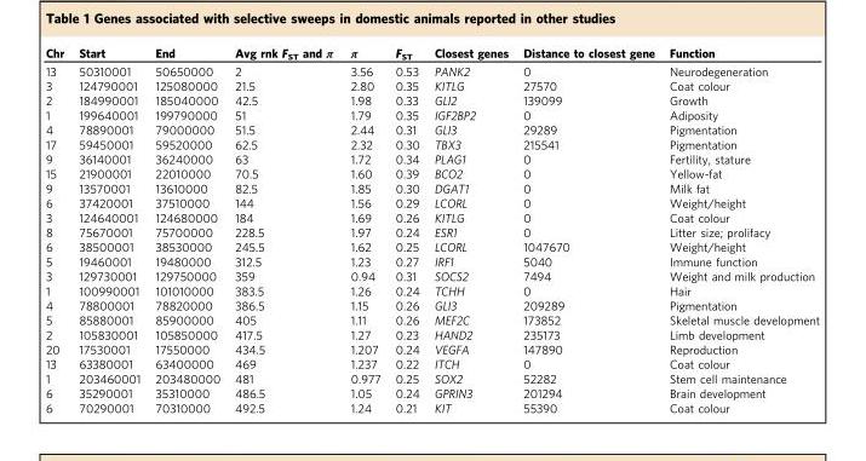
<table><thead><tr><td>Chr</td><td>Start</td><td>End</td><td>Avg rnk F<sub>ST</sub> and π</td><td>π</td><td>F<sub>ST</sub></td><td>Closest genes</td><td>Distance to closest gene</td><td>Function</td></tr></thead><tbody><tr><td>13</td><td>50310001</td><td>50650000</td><td>2</td><td>3.56</td><td>0.53</td><td>PANK2</td><td>0</td><td>Neurodegeneration</td></tr><tr><td>3</td><td>124790001</td><td>125080000</td><td>21.5</td><td>2.80</td><td>0.35</td><td>KITLG</td><td>27570</td><td>Coat colour</td></tr><tr><td>2</td><td>184990001</td><td>185040000</td><td>42.5</td><td>1.98</td><td>0.33</td><td>GLI2</td><td>139099</td><td>Growth</td></tr><tr><td>1</td><td>199640001</td><td>199790000</td><td>51</td><td>1.79</td><td>0.35</td><td>IGF2BP2</td><td>0</td><td>Adiposity</td></tr><tr><td>4</td><td>78890001</td><td>79000000</td><td>51.5</td><td>2.44</td><td>0.31</td><td>GLI3</td><td>29289</td><td>Pigmentation</td></tr><tr><td>17</td><td>59450001</td><td>59520000</td><td>62.5</td><td>2.32</td><td>0.30</td><td>TBX3</td><td>215541</td><td>Pigmentation</td></tr><tr><td>9</td><td>36140001</td><td>36240000</td><td>63</td><td>1.72</td><td>0.34</td><td>PLAG1</td><td>0</td><td>Fertility, stature</td></tr><tr><td>15</td><td>21900001</td><td>22010000</td><td>70.5</td><td>1.60</td><td>0.39</td><td>BCO2</td><td>0</td><td>Yellow-fat</td></tr><tr><td>9</td><td>13570001</td><td>13610000</td><td>82.5</td><td>1.85</td><td>0.30</td><td>DGAT1</td><td>0</td><td>Milk fat</td></tr><tr><td>6</td><td>37420001</td><td>37510000</td><td>144</td><td>1.56</td><td>0.29</td><td>LCORL</td><td>0</td><td>Weight/height</td></tr><tr><td>3</td><td>124640001</td><td>124680000</td><td>184</td><td>1.69</td><td>0.26</td><td>KITLG</td><td>0</td><td>Coat colour</td></tr><tr><td>8</td><td>75670001</td><td>75700000</td><td>228.5</td><td>1.97</td><td>0.24</td><td>ESR1</td><td>0</td><td>Litter size; prolifacy</td></tr><tr><td>6</td><td>38500001</td><td>38530000</td><td>245.5</td><td>1.62</td><td>0.25</td><td>LCORL</td><td>1047670</td><td>Weight/height</td></tr><tr><td>5</td><td>19460001</td><td>19480000</td><td>312.5</td><td>1.23</td><td>0.27</td><td>IRF1</td><td>5040</td><td>Immune function</td></tr><tr><td>3</td><td>129730001</td><td>129750000</td><td>359</td><td>0.94</td><td>0.31</td><td>SOCS2</td><td>7494</td><td>Weight and milk production</td></tr><tr><td>1</td><td>100990001</td><td>101010000</td><td>383.5</td><td>1.26</td><td>0.24</td><td>TCHH</td><td>0</td><td>Hair</td></tr><tr><td>4</td><td>78800001</td><td>78820000</td><td>386.5</td><td>1.15</td><td>0.26</td><td>GLI3</td><td>209289</td><td>Pigmentation</td></tr><tr><td>5</td><td>85880001</td><td>85900000</td><td>405</td><td>1.11</td><td>0.26</td><td>MEF2C</td><td>173852</td><td>Skeletal muscle development</td></tr><tr><td>2</td><td>105830001</td><td>105850000</td><td>417.5</td><td>1.27</td><td>0.23</td><td>HAND2</td><td>235173</td><td>Limb development</td></tr><tr><td>20</td><td>17530001</td><td>17550000</td><td>434.5</td><td>1.207</td><td>0.24</td><td>VEGFA</td><td>147890</td><td>Reproduction</td></tr><tr><td>13</td><td>63380001</td><td>63400000</td><td>469</td><td>1.237</td><td>0.22</td><td>ITCH</td><td>0</td><td>Coat colour</td></tr><tr><td>1</td><td>203460001</td><td>203480000</td><td>481</td><td>0.977</td><td>0.25</td><td>SOX2</td><td>52282</td><td>Stem cell maintenance</td></tr><tr><td>6</td><td>35290001</td><td>35310000</td><td>486.5</td><td>1.05</td><td>0.24</td><td>GPRIN3</td><td>201294</td><td>Brain development</td></tr><tr><td>6</td><td>70290001</td><td>70310000</td><td>492.5</td><td>1.24</td><td>0.21</td><td>KIT</td><td>55390</td><td>Coat colour</td></tr></tbody></table>